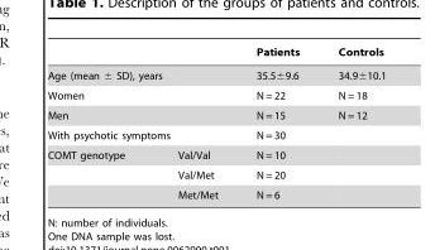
<table><thead><tr><td></td><td></td><td>Patients</td><td>Controls</td></tr></thead><tbody><tr><td>Age (mean ± SD), years</td><td></td><td>35.5±9.6</td><td>34.9±10.1</td></tr><tr><td>Women</td><td></td><td>N = 22</td><td>N = 18</td></tr><tr><td>Men</td><td></td><td>N = 15</td><td>N = 12</td></tr><tr><td>With psychotic symptoms</td><td></td><td>N = 30</td><td></td></tr><tr><td rowspan="3">COMT genotype</td><td>Val/Val</td><td>N = 10</td><td></td></tr><tr><td>Val/Met</td><td>N = 20</td><td></td></tr><tr><td>Met/Met</td><td>N = 6</td><td></td></tr></tbody></table>